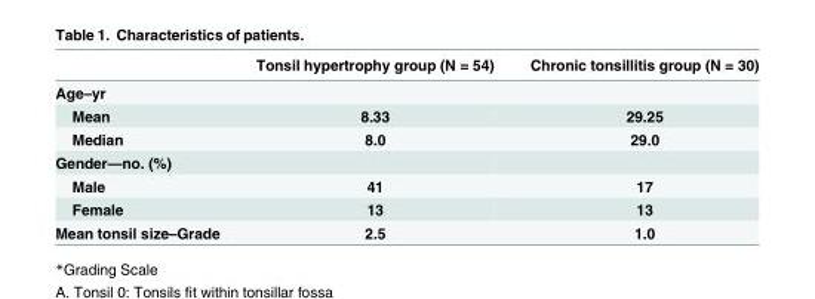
<table><thead><tr><td></td><td>Tonsil hypertrophy group (N = 54)</td><td>Chronic tonsillitis group (N = 30)</td></tr></thead><tbody><tr><td colspan="3">Age–yr</td></tr><tr><td>Mean</td><td>8.33</td><td>29.25</td></tr><tr><td>Median</td><td>8.0</td><td>29.0</td></tr><tr><td colspan="3">Gender—no. (%)</td></tr><tr><td>Male</td><td>41</td><td>17</td></tr><tr><td>Female</td><td>13</td><td>13</td></tr><tr><td>Mean tonsil size–Grade</td><td>2.5</td><td>1.0</td></tr></tbody></table>